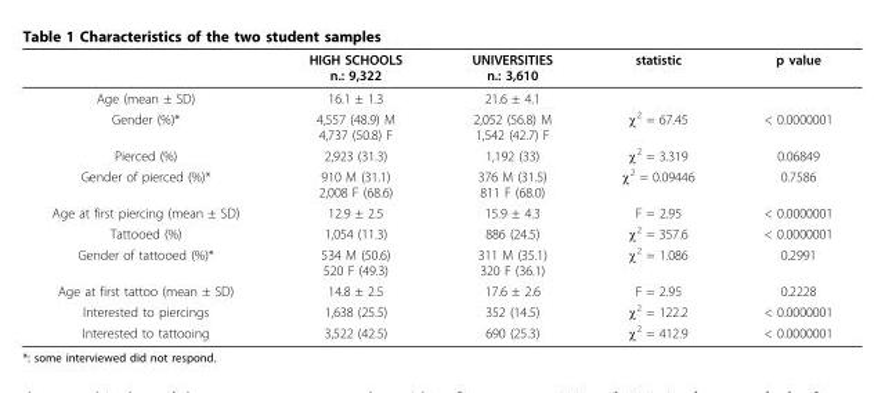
<table><thead><tr><td></td><td>HIGH SCHOOLS n.: 9,322</td><td>UNIVERSITIES n.: 3,610</td><td>statistic</td><td>p value</td></tr></thead><tbody><tr><td>Age (mean ± SD)</td><td>16.1 ± 1.3</td><td>21.6 ± 4.1</td><td></td><td></td></tr><tr><td>Gender (%)*</td><td>4,557 (48.9) M 4,737 (50.8) F</td><td>2,052 (56.8) M 1,542 (42.7) F</td><td>χ<sup>2</sup> = 67.45</td><td>&lt; 0.0000001</td></tr><tr><td>Pierced (%)</td><td>2,923 (31.3)</td><td>1,192 (33)</td><td>χ<sup>2</sup> = 3.319</td><td>0.06849</td></tr><tr><td>Gender of pierced (%)*</td><td>910 M (31.1) 2,008 F (68.6)</td><td>376 M (31.5) 811 F (68.0)</td><td>χ<sup>2</sup> = 0.09446</td><td>0.7586</td></tr><tr><td>Age at first piercing (mean ± SD)</td><td>12.9 ± 2.5</td><td>15.9 ± 4.3</td><td>F = 2.95</td><td>&lt; 0.0000001</td></tr><tr><td>Tattooed (%)</td><td>1,054 (11.3)</td><td>886 (24.5)</td><td>χ<sup>2</sup> = 357.6</td><td>&lt; 0.0000001</td></tr><tr><td>Gender of tattooed (%)*</td><td>534 M (50.6) 520 F (49.3)</td><td>311 M (35.1) 320 F (36.1)</td><td>χ<sup>2</sup> = 1.086</td><td>0.2991</td></tr><tr><td>Age at first tattoo (mean ± SD)</td><td>14.8 ± 2.5</td><td>17.6 ± 2.6</td><td>F = 2.95</td><td>0.2228</td></tr><tr><td>Interested to piercings</td><td>1,638 (25.5)</td><td>352 (14.5)</td><td>χ<sup>2</sup> = 122.2</td><td>&lt; 0.0000001</td></tr><tr><td>Interested to tattooing</td><td>3,522 (42.5)</td><td>690 (25.3)</td><td>χ<sup>2</sup> = 412.9</td><td>&lt; 0.0000001</td></tr></tbody></table>